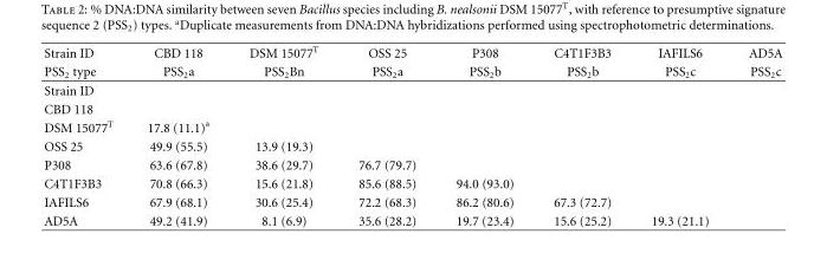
<table><thead><tr><td rowspan="2">Strain ID PSS2 type</td><td rowspan="2">CBD 118 PSS2a</td><td rowspan="2">DSM 15077T PSS2Bn</td><td rowspan="2">OSS 25 PSS2a</td><td rowspan="2">P308 PSS2b</td><td rowspan="2">C4T1F3B3 PSS2b</td><td rowspan="2">IAFILS6 PSS2c</td><td rowspan="2">AD5A PSS2c</td></tr><tr></tr></thead><tbody><tr><td colspan="8">Strain ID</td></tr><tr><td colspan="8">CBD 118</td></tr><tr><td>DSM 15077<sup>T</sup></td><td>17.8 (11.1)<sup>a</sup></td><td></td><td></td><td></td><td></td><td></td><td></td></tr><tr><td>OSS 25</td><td>49.9 (55.5)</td><td>13.9 (19.3)</td><td></td><td></td><td></td><td></td><td></td></tr><tr><td>P308</td><td>63.6 (67.8)</td><td>38.6 (29.7)</td><td>76.7 (79.7)</td><td></td><td></td><td></td><td></td></tr><tr><td>C4T1F3B3</td><td>70.8 (66.3)</td><td>15.6 (21.8)</td><td>85.6 (88.5)</td><td>94.0 (93.0)</td><td></td><td></td><td></td></tr><tr><td>IAFILS6</td><td>67.9 (68.1)</td><td>30.6 (25.4)</td><td>72.2 (68.3)</td><td>86.2 (80.6)</td><td>67.3 (72.7)</td><td></td><td></td></tr><tr><td>AD5A</td><td>49.2 (41.9)</td><td>8.1 (6.9)</td><td>35.6 (28.2)</td><td>19.7 (23.4)</td><td>15.6 (25.2)</td><td>19.3 (21.1)</td><td></td></tr></tbody></table>